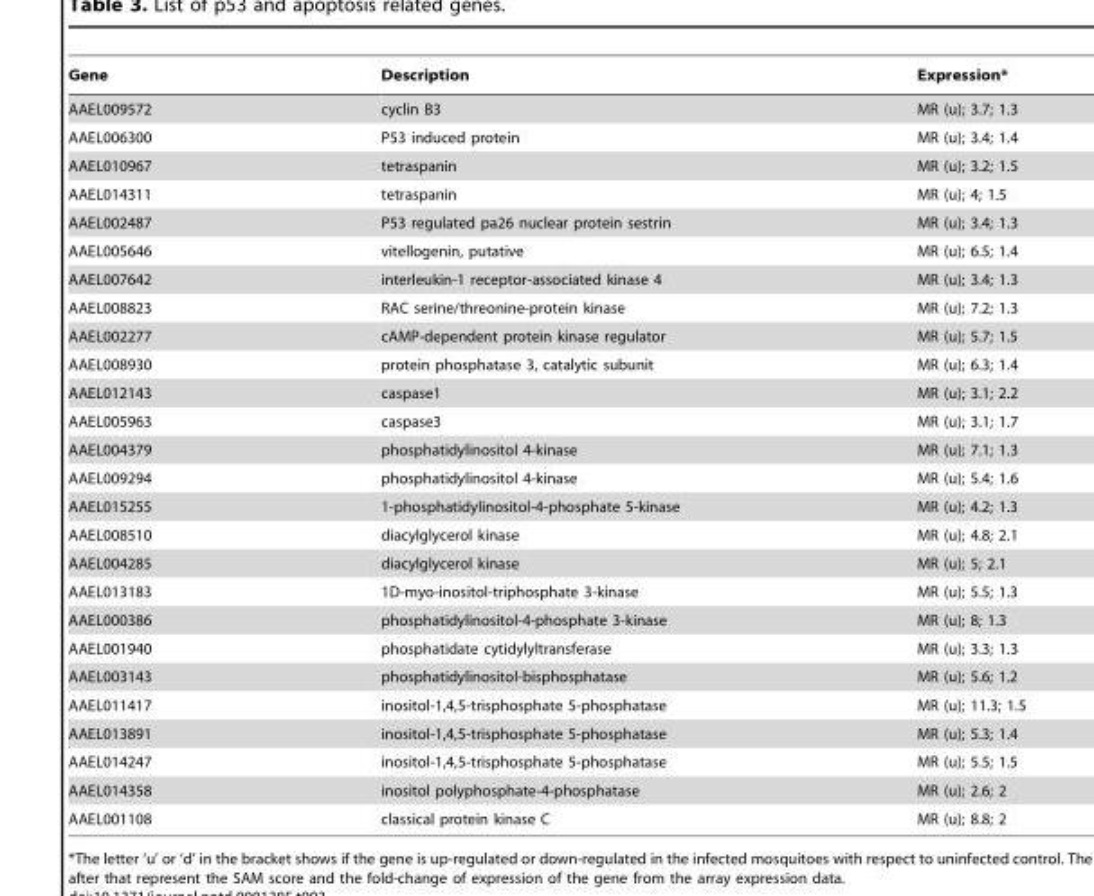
<table><thead><tr><td>Gene</td><td>Description</td><td>Expression*</td></tr></thead><tbody><tr><td>AAEL009572</td><td>cyclin B3</td><td>MR (u); 3.7; 1.3</td></tr><tr><td>AAEL006300</td><td>P53 induced protein</td><td>MR (u); 3.4; 1.4</td></tr><tr><td>AAEL010967</td><td>tetraspanin</td><td>MR (u); 3.2; 1.5</td></tr><tr><td>AAEL014311</td><td>tetraspanin</td><td>MR (u); 4; 1.5</td></tr><tr><td>AAEL002487</td><td>P53 regulated pa26 nuclear protein sestrin</td><td>MR (u); 3.4; 1.3</td></tr><tr><td>AAEL005646</td><td>vitellogenin, putative</td><td>MR (u); 6.5; 1.4</td></tr><tr><td>AAEL007642</td><td>interleukin-1 receptor-associated kinase 4</td><td>MR (u); 3.4; 1.3</td></tr><tr><td>AAEL008823</td><td>RAC serine/threonine-protein kinase</td><td>MR (u); 7.2; 1.3</td></tr><tr><td>AAEL002277</td><td>cAMP-dependent protein kinase regulator</td><td>MR (u); 5.7; 1.5</td></tr><tr><td>AAEL008930</td><td>protein phosphatase 3, catalytic subunit</td><td>MR (u); 6.3; 1.4</td></tr><tr><td>AAEL012143</td><td>caspase1</td><td>MR (u); 3.1; 2.2</td></tr><tr><td>AAEL005963</td><td>caspase3</td><td>MR (u); 3.1; 1.7</td></tr><tr><td>AAEL004379</td><td>phosphatidylinositol 4-kinase</td><td>MR (u); 7.1; 1.3</td></tr><tr><td>AAEL009294</td><td>phosphatidylinositol 4-kinase</td><td>MR (u); 5.4; 1.6</td></tr><tr><td>AAEL015255</td><td>1-phosphatidylinositol-4-phosphate 5-kinase</td><td>MR (u); 4.2; 1.3</td></tr><tr><td>AAEL008510</td><td>diacylglycerol kinase</td><td>MR (u); 4.8; 2.1</td></tr><tr><td>AAEL004285</td><td>diacylglycerol kinase</td><td>MR (u); 5; 2.1</td></tr><tr><td>AAEL013183</td><td>1D-myo-inositol-triphosphate 3-kinase</td><td>MR (u); 5.5; 1.3</td></tr><tr><td>AAEL000386</td><td>phosphatidylinositol-4-phosphate 3-kinase</td><td>MR (u); 8; 1.3</td></tr><tr><td>AAEL001940</td><td>phosphatidate cytidylyltransferase</td><td>MR (u); 3.3; 1.3</td></tr><tr><td>AAEL003143</td><td>phosphatidylinositol-bisphosphatase</td><td>MR (u); 5.6; 1.2</td></tr><tr><td>AAEL011417</td><td>inositol-1,4,5-trisphosphate 5-phosphatase</td><td>MR (u); 11.3; 1.5</td></tr><tr><td>AAEL013891</td><td>inositol-1,4,5-trisphosphate 5-phosphatase</td><td>MR (u); 5.3; 1.4</td></tr><tr><td>AAEL014247</td><td>inositol-1,4,5-trisphosphate 5-phosphatase</td><td>MR (u); 5.5; 1.5</td></tr><tr><td>AAEL014358</td><td>inositol polyphosphate-4-phosphatase</td><td>MR (u); 2.6; 2</td></tr><tr><td>AAEL001108</td><td>classical protein kinase C</td><td>MR (u); 8.8; 2</td></tr></tbody></table>